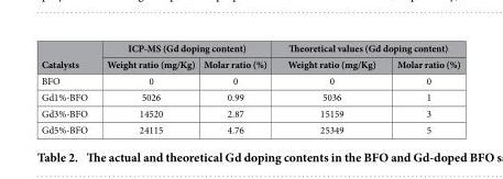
<table><thead><tr><td rowspan="2">Catalysts</td><td colspan="2">ICP-MS (Gd doping content)</td><td colspan="2">Theoretical values (Gd doping content)</td></tr><tr><td>Weight ratio (mg/Kg)</td><td>Molar ratio (%)</td><td>Weight ratio (mg/Kg)</td><td>Molar ratio (%)</td></tr></thead><tbody><tr><td>BFO</td><td>0</td><td>0</td><td>0</td><td>0</td></tr><tr><td>Gd1%-BFO</td><td>5026</td><td>0.99</td><td>5036</td><td>1</td></tr><tr><td>Gd3%-BFO</td><td>14520</td><td>2.87</td><td>15159</td><td>3</td></tr><tr><td>Gd5%-BFO</td><td>24115</td><td>4.76</td><td>25349</td><td>5</td></tr></tbody></table>